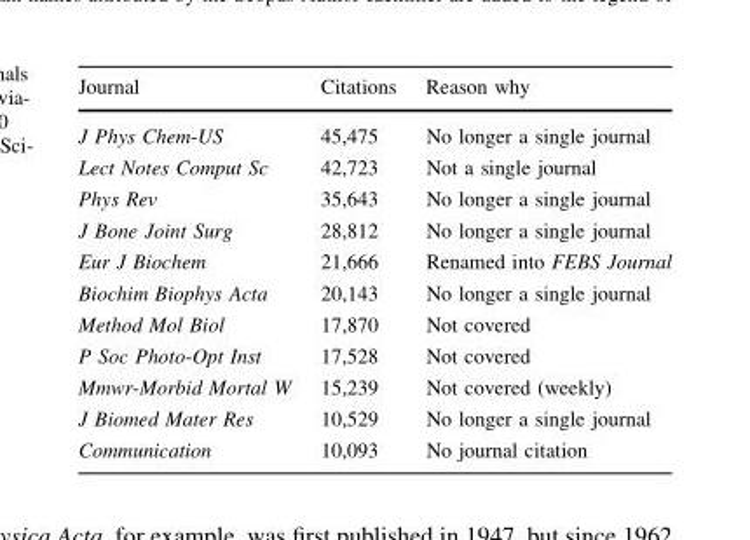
<table><thead><tr><td>Journal</td><td>Citations</td><td>Reason why</td></tr></thead><tbody><tr><td>J Phys Chem-US</td><td>45,475</td><td>No longer a single journal</td></tr><tr><td>Lect Notes Comput Sc</td><td>42,723</td><td>Not a single journal</td></tr><tr><td>Phys Rev</td><td>35,643</td><td>No longer a single journal</td></tr><tr><td>J Bone Joint Surg</td><td>28,812</td><td>No longer a single journal</td></tr><tr><td>Eur J Biochem</td><td>21,666</td><td>Renamed into FEBS Journal</td></tr><tr><td>Biochim Biophys Acta</td><td>20,143</td><td>No longer a single journal</td></tr><tr><td>Method Mol Biol</td><td>17,870</td><td>Not covered</td></tr><tr><td>P Soc Photo-Opt Inst</td><td>17,528</td><td>Not covered</td></tr><tr><td>Mmwr-Morbid Mortal W</td><td>15,239</td><td>Not covered (weekly)</td></tr><tr><td>J Biomed Mater Res</td><td>10,529</td><td>No longer a single journal</td></tr><tr><td>Communication</td><td>10,093</td><td>No journal citation</td></tr></tbody></table>